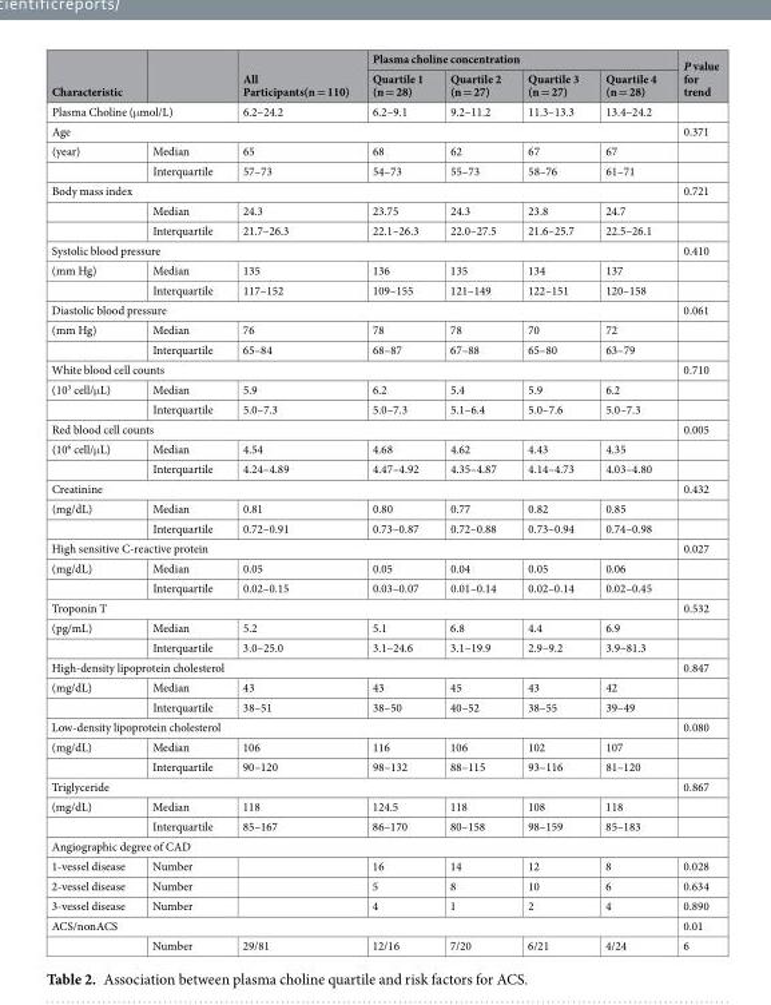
<table><thead><tr><td rowspan="2">Characteristic</td><td rowspan="2"></td><td rowspan="2">All Participants(n = 110)</td><td colspan="4">Plasma choline concentration</td><td rowspan="2">P value for trend</td></tr><tr><td>Quartile 1 (n = 28)</td><td>Quartile 2 (n = 27)</td><td>Quartile 3 (n = 27)</td><td>Quartile 4 (n = 28)</td></tr></thead><tbody><tr><td colspan="2">Plasma Choline (μmol/L)</td><td>6.2–24.2</td><td>6.2–9.1</td><td>9.2–11.2</td><td>11.3–13.3</td><td>13.4–24.2</td><td></td></tr><tr><td colspan="7">Age</td><td>0.371</td></tr><tr><td rowspan="2">(year)</td><td>Median</td><td>65</td><td>68</td><td>62</td><td>67</td><td>67</td><td></td></tr><tr><td>Interquartile</td><td>57–73</td><td>54–73</td><td>55–73</td><td>58–76</td><td>61–71</td><td></td></tr><tr><td colspan="7">Body mass index</td><td>0.721</td></tr><tr><td></td><td>Median</td><td>24.3</td><td>23.75</td><td>24.3</td><td>23.8</td><td>24.7</td><td></td></tr><tr><td></td><td>Interquartile</td><td>21.7–26.3</td><td>22.1–26.3</td><td>22.0–27.5</td><td>21.6–25.7</td><td>22.5–26.1</td><td></td></tr><tr><td colspan="7">Systolic blood pressure</td><td>0.410</td></tr><tr><td rowspan="2">(mm Hg)</td><td>Median</td><td>135</td><td>136</td><td>135</td><td>134</td><td>137</td><td></td></tr><tr><td>Interquartile</td><td>117–152</td><td>109–155</td><td>121–149</td><td>122–151</td><td>120–158</td><td></td></tr><tr><td colspan="7">Diastolic blood pressure</td><td>0.061</td></tr><tr><td rowspan="2">(mm Hg)</td><td>Median</td><td>76</td><td>78</td><td>78</td><td>70</td><td>72</td><td></td></tr><tr><td>Interquartile</td><td>65–84</td><td>68–87</td><td>67–88</td><td>65–80</td><td>63–79</td><td></td></tr><tr><td colspan="7">White blood cell counts</td><td>0.710</td></tr><tr><td rowspan="2">(10<sup>3</sup> cell/μL)</td><td>Median</td><td>5.9</td><td>6.2</td><td>5.4</td><td>5.9</td><td>6.2</td><td></td></tr><tr><td>Interquartile</td><td>5.0–7.3</td><td>5.0–7.3</td><td>5.1–6.4</td><td>5.0–7.6</td><td>5.0–7.3</td><td></td></tr><tr><td colspan="7">Red blood cell counts</td><td>0.005</td></tr><tr><td rowspan="2">(10<sup>6</sup> cell/μL)</td><td>Median</td><td>4.54</td><td>4.68</td><td>4.62</td><td>4.43</td><td>4.35</td><td></td></tr><tr><td>Interquartile</td><td>4.24–4.89</td><td>4.47–4.92</td><td>4.35–4.87</td><td>4.14–4.73</td><td>4.03–4.80</td><td></td></tr><tr><td colspan="7">Creatinine</td><td>0.432</td></tr><tr><td rowspan="2">(mg/dL)</td><td>Median</td><td>0.81</td><td>0.80</td><td>0.77</td><td>0.82</td><td>0.85</td><td></td></tr><tr><td>Interquartile</td><td>0.72–0.91</td><td>0.73–0.87</td><td>0.72–0.88</td><td>0.73–0.94</td><td>0.74–0.98</td><td></td></tr><tr><td colspan="7">High sensitive C-reactive protein</td><td>0.027</td></tr><tr><td rowspan="2">(mg/dL)</td><td>Median</td><td>0.05</td><td>0.05</td><td>0.04</td><td>0.05</td><td>0.06</td><td></td></tr><tr><td>Interquartile</td><td>0.02–0.15</td><td>0.03–0.07</td><td>0.01–0.14</td><td>0.02–0.14</td><td>0.02–0.45</td><td></td></tr><tr><td colspan="7">Troponin T</td><td>0.532</td></tr><tr><td rowspan="2">(pg/mL)</td><td>Median</td><td>5.2</td><td>5.1</td><td>6.8</td><td>4.4</td><td>6.9</td><td></td></tr><tr><td>Interquartile</td><td>3.0–25.0</td><td>3.1–24.6</td><td>3.1–19.9</td><td>2.9–9.2</td><td>3.9–81.3</td><td></td></tr><tr><td colspan="7">High-density lipoprotein cholesterol</td><td>0.847</td></tr><tr><td rowspan="2">(mg/dL)</td><td>Median</td><td>43</td><td>43</td><td>45</td><td>43</td><td>42</td><td></td></tr><tr><td>Interquartile</td><td>38–51</td><td>38–50</td><td>40–52</td><td>38–55</td><td>39–49</td><td></td></tr><tr><td colspan="7">Low-density lipoprotein cholesterol</td><td>0.080</td></tr><tr><td rowspan="2">(mg/dL)</td><td>Median</td><td>106</td><td>116</td><td>106</td><td>102</td><td>107</td><td></td></tr><tr><td>Interquartile</td><td>90–120</td><td>98–132</td><td>88–115</td><td>93–116</td><td>81–120</td><td></td></tr><tr><td colspan="7">Triglyceride</td><td>0.867</td></tr><tr><td rowspan="2">(mg/dL)</td><td>Median</td><td>118</td><td>124.5</td><td>118</td><td>108</td><td>118</td><td></td></tr><tr><td>Interquartile</td><td>85–167</td><td>86–170</td><td>80–158</td><td>98–159</td><td>85–183</td><td></td></tr><tr><td colspan="8">Angiographic degree of CAD</td></tr><tr><td>1-vessel disease</td><td>Number</td><td></td><td>16</td><td>14</td><td>12</td><td>8</td><td>0.028</td></tr><tr><td>2-vessel disease</td><td>Number</td><td></td><td>5</td><td>8</td><td>10</td><td>6</td><td>0.634</td></tr><tr><td>3-vessel disease</td><td>Number</td><td></td><td>4</td><td>1</td><td>2</td><td>4</td><td>0.890</td></tr><tr><td colspan="7">ACS/nonACS</td><td>0.01</td></tr><tr><td></td><td>Number</td><td>29/81</td><td>12/16</td><td>7/20</td><td>6/21</td><td>4/24</td><td>6</td></tr></tbody></table>